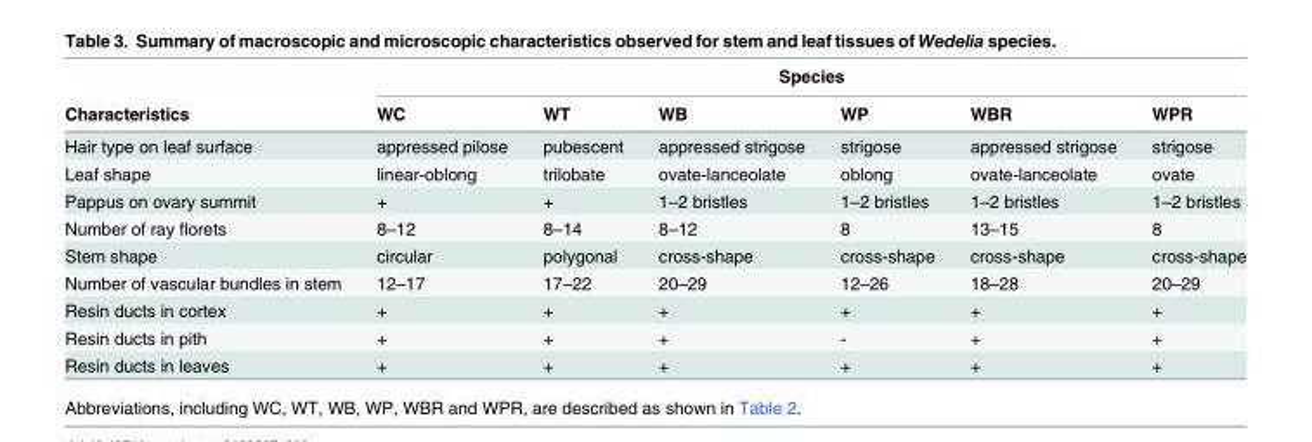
<table><thead><tr><td rowspan="2">Characteristics</td><td colspan="6">Species</td></tr><tr><td>WC</td><td>WT</td><td>WB</td><td>WP</td><td>WBR</td><td>WPR</td></tr></thead><tbody><tr><td>Hair type on leaf surface</td><td>appressed pilose</td><td>pubescent</td><td>appressed strigose</td><td>strigose</td><td>appressed strigose</td><td>strigose</td></tr><tr><td>Leaf shape</td><td>linear-oblong</td><td>trilobate</td><td>ovate-lanceolate</td><td>oblong</td><td>ovate-lanceolate</td><td>ovate</td></tr><tr><td>Pappus on ovary summit</td><td>+</td><td>+</td><td>1–2 bristles</td><td>1–2 bristles</td><td>1–2 bristles</td><td>1–2 bristles</td></tr><tr><td>Number of ray florets</td><td>8–12</td><td>8–14</td><td>8–12</td><td>8</td><td>13–15</td><td>8</td></tr><tr><td>Stem shape</td><td>circular</td><td>polygonal</td><td>cross-shape</td><td>cross-shape</td><td>cross-shape</td><td>cross-shape</td></tr><tr><td>Number of vascular bundles in stem</td><td>12–17</td><td>17–22</td><td>20–29</td><td>12–26</td><td>18–28</td><td>20–29</td></tr><tr><td>Resin ducts in cortex</td><td>+</td><td>+</td><td>+</td><td>+</td><td>+</td><td>+</td></tr><tr><td>Resin ducts in pith</td><td>+</td><td>+</td><td>+</td><td>-</td><td>+</td><td>+</td></tr><tr><td>Resin ducts in leaves</td><td>+</td><td>+</td><td>+</td><td>+</td><td>+</td><td>+</td></tr></tbody></table>